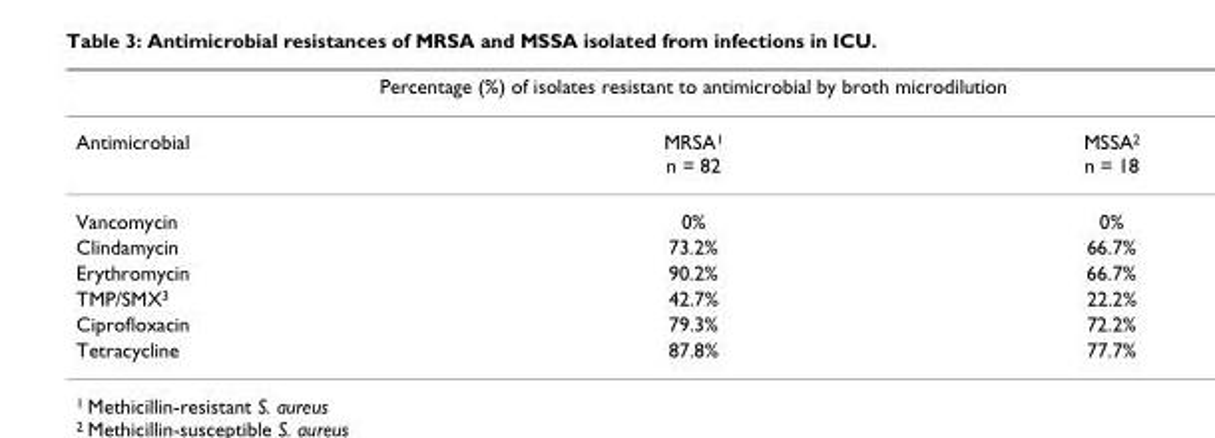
<table><thead><tr><td colspan="3">Percentage (%) of isolates resistant to antimicrobial by broth microdilution</td></tr><tr><td>Antimicrobial</td><td>MRSA<sup>1</sup> n = 82</td><td>MSSA<sup>2</sup> n = 18</td></tr></thead><tbody><tr><td>Vancomycin</td><td>0%</td><td>0%</td></tr><tr><td>Clindamycin</td><td>73.2%</td><td>66.7%</td></tr><tr><td>Erythromycin</td><td>90.2%</td><td>66.7%</td></tr><tr><td>TMP/SMX<sup>3</sup></td><td>42.7%</td><td>22.2%</td></tr><tr><td>Ciprofloxacin</td><td>79.3%</td><td>72.2%</td></tr><tr><td>Tetracycline</td><td>87.8%</td><td>77.7%</td></tr></tbody></table>